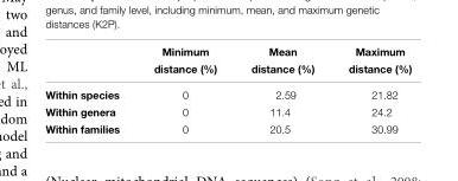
<table><thead><tr><td rowspan="2"></td><td rowspan="2">Minimum distance (%)</td><td rowspan="2">Mean distance (%)</td><td rowspan="2">Maximum distance (%)</td></tr><tr></tr></thead><tbody><tr><td>Within species</td><td>0</td><td>2.59</td><td>21.82</td></tr><tr><td>Within genera</td><td>0</td><td>11.4</td><td>24.2</td></tr><tr><td>Within families</td><td>0</td><td>20.5</td><td>30.99</td></tr></tbody></table>